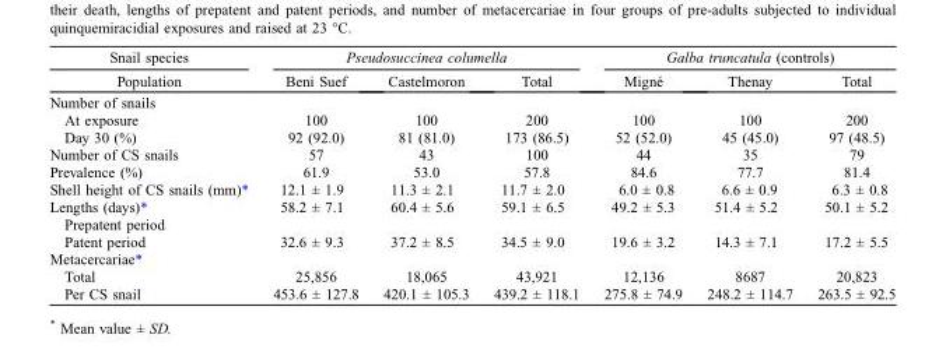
<table><thead><tr><td rowspan="2">Snail species Population</td><td colspan="3">Pseudosuccinea columella</td><td colspan="3">Galba truncatula (controls)</td></tr><tr><td>Beni Suef</td><td>Castelmoron</td><td>Total</td><td>Migné</td><td>Thenay</td><td>Total</td></tr></thead><tbody><tr><td colspan="7">Number of snails</td></tr><tr><td>At exposure</td><td>100</td><td>100</td><td>200</td><td>100</td><td>100</td><td>200</td></tr><tr><td>Day 30 (%)</td><td>92 (92.0)</td><td>81 (81.0)</td><td>173 (86.5)</td><td>52 (52.0)</td><td>45 (45.0)</td><td>97 (48.5)</td></tr><tr><td>Number of CS snails</td><td>57</td><td>43</td><td>100</td><td>44</td><td>35</td><td>79</td></tr><tr><td>Prevalence (%)</td><td>61.9</td><td>53.0</td><td>57.8</td><td>84.6</td><td>77.7</td><td>81.4</td></tr><tr><td>Shell height of CS snails (mm)*</td><td>12.1 ± 1.9</td><td>11.3 ± 2.1</td><td>11.7 ± 2.0</td><td>6.0 ± 0.8</td><td>6.6 ± 0.9</td><td>6.3 ± 0.8</td></tr><tr><td>Lengths (days)*</td><td>58.2 ± 7.1</td><td>60.4 ± 5.6</td><td>59.1 ± 6.5</td><td>49.2 ± 5.3</td><td>51.4 ± 5.2</td><td>50.1 ± 5.2</td></tr><tr><td colspan="7">Prepatent period</td></tr><tr><td>Patent period</td><td>32.6 ± 9.3</td><td>37.2 ± 8.5</td><td>34.5 ± 9.0</td><td>19.6 ± 3.2</td><td>14.3 ± 7.1</td><td>17.2 ± 5.5</td></tr><tr><td colspan="7">Metacercariae*</td></tr><tr><td>Total</td><td>25,856</td><td>18,065</td><td>43,921</td><td>12,136</td><td>8687</td><td>20,823</td></tr><tr><td>Per CS snail</td><td>453.6 ± 127.8</td><td>420.1 ± 105.3</td><td>439.2 ± 118.1</td><td>275.8 ± 74.9</td><td>248.2 ± 114.7</td><td>263.5 ± 92.5</td></tr></tbody></table>